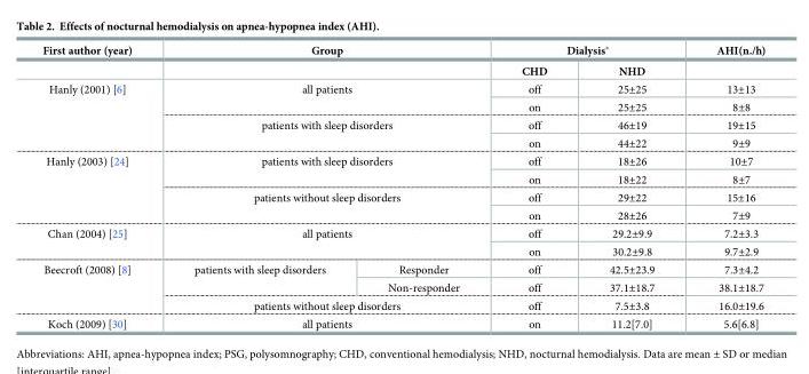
<table><thead><tr><td rowspan="2">First author (year)</td><td colspan="2">Group</td><td colspan="2">Dialysis*</td><td rowspan="2">AHI(n./h)</td></tr><tr><td></td><td></td><td>CHD</td><td>NHD</td></tr></thead><tbody><tr><td rowspan="4">Hanly (2001) [6]</td><td rowspan="2" colspan="2">all patients</td><td>off</td><td>25±25</td><td>13±13</td></tr><tr><td>on</td><td>25±25</td><td>8±8</td></tr><tr><td rowspan="2" colspan="2">patients with sleep disorders</td><td>off</td><td>46±19</td><td>19±15</td></tr><tr><td>on</td><td>44±22</td><td>9±9</td></tr><tr><td rowspan="4">Hanly (2003) [24]</td><td rowspan="2" colspan="2">patients with sleep disorders</td><td>off</td><td>18±26</td><td>10±7</td></tr><tr><td>on</td><td>18±22</td><td>8±7</td></tr><tr><td rowspan="2" colspan="2">patients without sleep disorders</td><td>off</td><td>29±22</td><td>15±16</td></tr><tr><td>on</td><td>28±26</td><td>7±9</td></tr><tr><td rowspan="2">Chan (2004) [25]</td><td rowspan="2" colspan="2">all patients</td><td>off</td><td>29.2±9.9</td><td>7.2±3.3</td></tr><tr><td>on</td><td>30.2±9.8</td><td>9.7±2.9</td></tr><tr><td rowspan="3">Beecroft (2008) [8]</td><td rowspan="2">patients with sleep disorders</td><td>Responder</td><td>off</td><td>42.5±23.9</td><td>7.3±4.2</td></tr><tr><td>Non-responder</td><td>off</td><td>37.1±18.7</td><td>38.1±18.7</td></tr><tr><td colspan="2">patients without sleep disorders</td><td>off</td><td>7.5±3.8</td><td>16.0±19.6</td></tr><tr><td>Koch (2009) [30]</td><td colspan="2">all patients</td><td>on</td><td>11.2[7.0]</td><td>5.6[6.8]</td></tr></tbody></table>